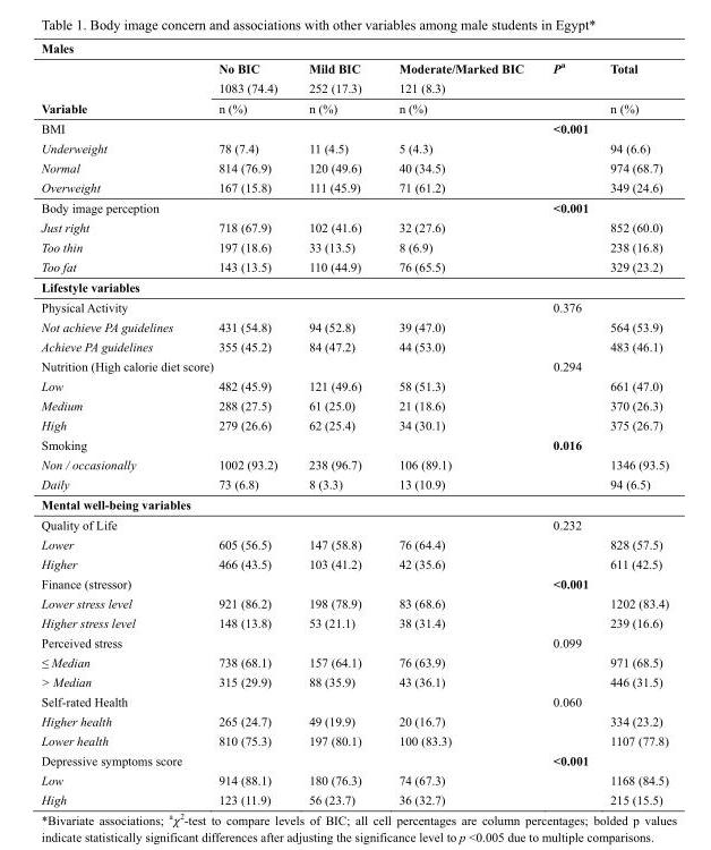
<table><thead><tr><td colspan="6">Males</td></tr><tr><td></td><td>No BIC</td><td>Mild BIC</td><td>Moderate/Marked BIC</td><td>P<sup>a</sup></td><td>Total</td></tr></thead><tbody><tr><td></td><td>1083 (74.4)</td><td>252 (17.3)</td><td>121 (8.3)</td><td></td><td></td></tr><tr><td>Variable</td><td>n (%)</td><td>n (%)</td><td>n (%)</td><td></td><td>n (%)</td></tr><tr><td colspan="4">BMI</td><td>&lt;0.001</td><td></td></tr><tr><td>Underweight</td><td>78 (7.4)</td><td>11 (4.5)</td><td>5 (4.3)</td><td></td><td>94 (6.6)</td></tr><tr><td>Normal</td><td>814 (76.9)</td><td>120 (49.6)</td><td>40 (34.5)</td><td></td><td>974 (68.7)</td></tr><tr><td>Overweight</td><td>167 (15.8)</td><td>111 (45.9)</td><td>71 (61.2)</td><td></td><td>349 (24.6)</td></tr><tr><td colspan="4">Body image perception</td><td>&lt;0.001</td><td></td></tr><tr><td>Just right</td><td>718 (67.9)</td><td>102 (41.6)</td><td>32 (27.6)</td><td></td><td>852 (60.0)</td></tr><tr><td>Too thin</td><td>197 (18.6)</td><td>33 (13.5)</td><td>8 (6.9)</td><td></td><td>238 (16.8)</td></tr><tr><td>Too fat</td><td>143 (13.5)</td><td>110 (44.9)</td><td>76 (65.5)</td><td></td><td>329 (23.2)</td></tr><tr><td colspan="6">Lifestyle variables</td></tr><tr><td colspan="4">Physical Activity</td><td>0.376</td><td></td></tr><tr><td>Not achieve PA guidelines</td><td>431 (54.8)</td><td>94 (52.8)</td><td>39 (47.0)</td><td></td><td>564 (53.9)</td></tr><tr><td>Achieve PA guidelines</td><td>355 (45.2)</td><td>84 (47.2)</td><td>44 (53.0)</td><td></td><td>483 (46.1)</td></tr><tr><td colspan="4">Nutrition (High calorie diet score)</td><td>0.294</td><td></td></tr><tr><td>Low</td><td>482 (45.9)</td><td>121 (49.6)</td><td>58 (51.3)</td><td></td><td>661 (47.0)</td></tr><tr><td>Medium</td><td>288 (27.5)</td><td>61 (25.0)</td><td>21 (18.6)</td><td></td><td>370 (26.3)</td></tr><tr><td>High</td><td>279 (26.6)</td><td>62 (25.4)</td><td>34 (30.1)</td><td></td><td>375 (26.7)</td></tr><tr><td colspan="4">Smoking</td><td>0.016</td><td></td></tr><tr><td>Non / occasionally</td><td>1002 (93.2)</td><td>238 (96.7)</td><td>106 (89.1)</td><td></td><td>1346 (93.5)</td></tr><tr><td>Daily</td><td>73 (6.8)</td><td>8 (3.3)</td><td>13 (10.9)</td><td></td><td>94 (6.5)</td></tr><tr><td colspan="6">Mental well-being variables</td></tr><tr><td colspan="4">Quality of Life</td><td>0.232</td><td></td></tr><tr><td>Lower</td><td>605 (56.5)</td><td>147 (58.8)</td><td>76 (64.4)</td><td></td><td>828 (57.5)</td></tr><tr><td>Higher</td><td>466 (43.5)</td><td>103 (41.2)</td><td>42 (35.6)</td><td></td><td>611 (42.5)</td></tr><tr><td colspan="4">Finance (stressor)</td><td>&lt;0.001</td><td></td></tr><tr><td>Lower stress level</td><td>921 (86.2)</td><td>198 (78.9)</td><td>83 (68.6)</td><td></td><td>1202 (83.4)</td></tr><tr><td>Higher stress level</td><td>148 (13.8)</td><td>53 (21.1)</td><td>38 (31.4)</td><td></td><td>239 (16.6)</td></tr><tr><td colspan="4">Perceived stress</td><td>0.099</td><td></td></tr><tr><td>≤ Median</td><td>738 (68.1)</td><td>157 (64.1)</td><td>76 (63.9)</td><td></td><td>971 (68.5)</td></tr><tr><td>&gt; Median</td><td>315 (29.9)</td><td>88 (35.9)</td><td>43 (36.1)</td><td></td><td>446 (31.5)</td></tr><tr><td colspan="4">Self-rated Health</td><td>0.060</td><td></td></tr><tr><td>Higher health</td><td>265 (24.7)</td><td>49 (19.9)</td><td>20 (16.7)</td><td></td><td>334 (23.2)</td></tr><tr><td>Lower health</td><td>810 (75.3)</td><td>197 (80.1)</td><td>100 (83.3)</td><td></td><td>1107 (77.8)</td></tr><tr><td colspan="4">Depressive symptoms score</td><td>&lt;0.001</td><td></td></tr><tr><td>Low</td><td>914 (88.1)</td><td>180 (76.3)</td><td>74 (67.3)</td><td></td><td>1168 (84.5)</td></tr><tr><td>High</td><td>123 (11.9)</td><td>56 (23.7)</td><td>36 (32.7)</td><td></td><td>215 (15.5)</td></tr></tbody></table>